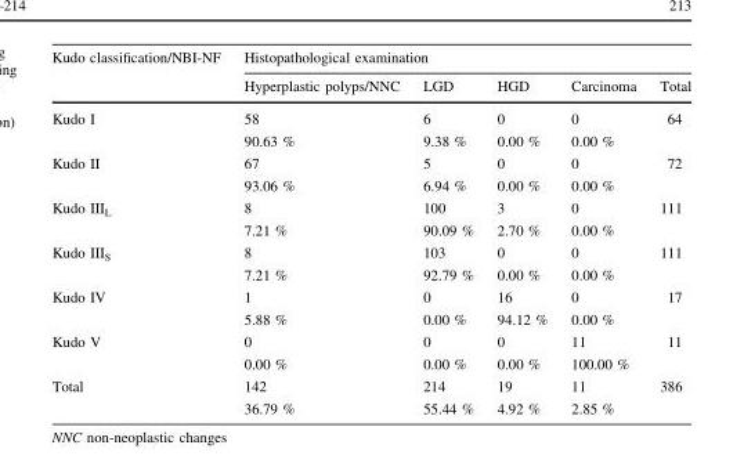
<table><thead><tr><td rowspan="2">Kudo classification/NBI-NF</td><td colspan="5">Histopathological examination</td></tr><tr><td>Hyperplastic polyps/NNC</td><td>LGD</td><td>HGD</td><td>Carcinoma</td><td>Total</td></tr></thead><tbody><tr><td rowspan="2">Kudo I</td><td>58</td><td>6</td><td>0</td><td>0</td><td rowspan="2">64</td></tr><tr><td>90.63 %</td><td>9.38 %</td><td>0.00 %</td><td>0.00 %</td></tr><tr><td rowspan="2">Kudo II</td><td>67</td><td>5</td><td>0</td><td>0</td><td rowspan="2">72</td></tr><tr><td>93.06 %</td><td>6.94 %</td><td>0.00 %</td><td>0.00 %</td></tr><tr><td rowspan="2">Kudo III<sub>L</sub></td><td>8</td><td>100</td><td>3</td><td>0</td><td rowspan="2">111</td></tr><tr><td>7.21 %</td><td>90.09 %</td><td>2.70 %</td><td>0.00 %</td></tr><tr><td rowspan="2">Kudo III<sub>S</sub></td><td>8</td><td>103</td><td>0</td><td>0</td><td rowspan="2">111</td></tr><tr><td>7.21 %</td><td>92.79 %</td><td>0.00 %</td><td>0.00 %</td></tr><tr><td rowspan="2">Kudo IV</td><td>1</td><td>0</td><td>16</td><td>0</td><td rowspan="2">17</td></tr><tr><td>5.88 %</td><td>0.00 %</td><td>94.12 %</td><td>0.00 %</td></tr><tr><td rowspan="2">Kudo V</td><td>0</td><td>0</td><td>0</td><td>11</td><td rowspan="2">11</td></tr><tr><td>0.00 %</td><td>0.00 %</td><td>0.00 %</td><td>100.00 %</td></tr><tr><td rowspan="2">Total</td><td>142</td><td>214</td><td>19</td><td>11</td><td rowspan="2">386</td></tr><tr><td>36.79 %</td><td>55.44 %</td><td>4.92 %</td><td>2.85 %</td></tr></tbody></table>